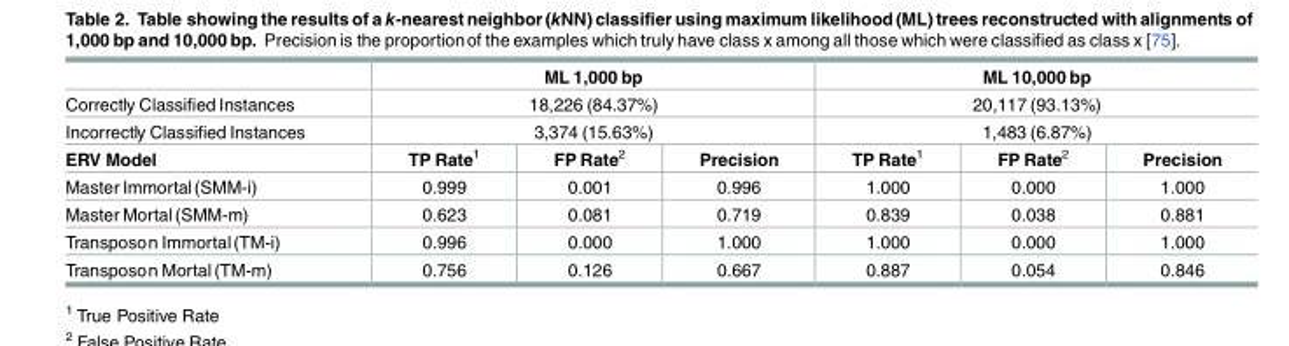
<table><thead><tr><td rowspan="4">Correctly Classified Instances Incorrectly Classified Instances ERV Model</td><td rowspan="3" colspan="3">ML 1,000 bp 18,226 (84.37%) 3,374 (15.63%)</td><td rowspan="3" colspan="3">ML 10,000 bp 20,117 (93.13%) 1,483 (6.87%)</td></tr><tr></tr><tr></tr><tr><td>TP Rate<sup>1</sup></td><td>FP Rate<sup>2</sup></td><td>Precision</td><td>TP Rate<sup>1</sup></td><td>FP Rate<sup>2</sup></td><td>Precision</td></tr></thead><tbody><tr><td>Master Immortal(SMM-i)</td><td>0.999</td><td>0.001</td><td>0.996</td><td>1.000</td><td>0.000</td><td>1.000</td></tr><tr><td>Master Mortal(SMM-m)</td><td>0.623</td><td>0.081</td><td>0.719</td><td>0.839</td><td>0.038</td><td>0.881</td></tr><tr><td>Transposon Immortal(TM-i)</td><td>0.996</td><td>0.000</td><td>1.000</td><td>1.000</td><td>0.000</td><td>1.000</td></tr><tr><td>Transposon Mortal(TM-m)</td><td>0.756</td><td>0.126</td><td>0.667</td><td>0.887</td><td>0.054</td><td>0.846</td></tr></tbody></table>